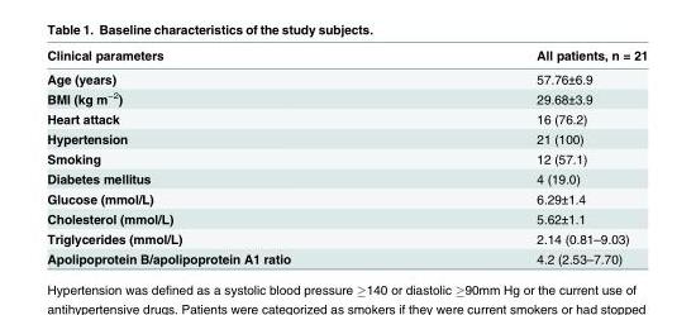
<table><thead><tr><td>Clinical parameters</td><td>All patients, n = 21</td></tr></thead><tbody><tr><td>Age (years)</td><td>57.76±6.9</td></tr><tr><td>BMI (kg m<sup>−2</sup>)</td><td>29.68±3.9</td></tr><tr><td>Heart attack</td><td>16 (76.2)</td></tr><tr><td>Hypertension</td><td>21 (100)</td></tr><tr><td>Smoking</td><td>12 (57.1)</td></tr><tr><td>Diabetes mellitus</td><td>4 (19.0)</td></tr><tr><td>Glucose (mmol/L)</td><td>6.29±1.4</td></tr><tr><td>Cholesterol (mmol/L)</td><td>5.62±1.1</td></tr><tr><td>Triglycerides (mmol/L)</td><td>2.14 (0.81–9.03)</td></tr><tr><td>Apolipoprotein B/apolipoprotein A1 ratio</td><td>4.2 (2.53–7.70)</td></tr></tbody></table>